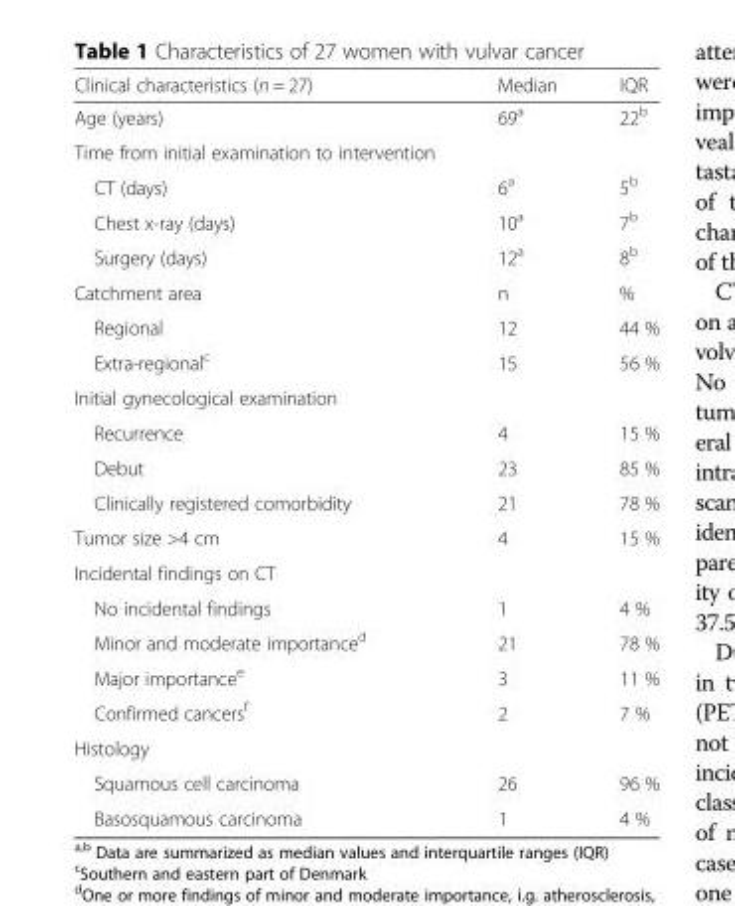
<table><thead><tr><td>Clinical characteristics (n = 27)</td><td>Median</td><td>IQR</td></tr></thead><tbody><tr><td>Age (years)</td><td>69<sup>a</sup></td><td>22<sup>b</sup></td></tr><tr><td colspan="3">Time from initial examination to intervention</td></tr><tr><td>CT (days)</td><td>6<sup>a</sup></td><td>5<sup>b</sup></td></tr><tr><td>Chest x-ray (days)</td><td>10<sup>a</sup></td><td>7<sup>b</sup></td></tr><tr><td>Surgery (days)</td><td>12<sup>a</sup></td><td>8<sup>b</sup></td></tr><tr><td>Catchment area</td><td>n</td><td>%</td></tr><tr><td>Regional</td><td>12</td><td>44 %</td></tr><tr><td>Extra-regional<sup>c</sup></td><td>15</td><td>56 %</td></tr><tr><td colspan="3">Initial gynecological examination</td></tr><tr><td>Recurrence</td><td>4</td><td>15 %</td></tr><tr><td>Debut</td><td>23</td><td>85 %</td></tr><tr><td>Clinically registered comorbidity</td><td>21</td><td>78 %</td></tr><tr><td>Tumor size &gt;4 cm</td><td>4</td><td>15 %</td></tr><tr><td colspan="3">Incidental findings on CT</td></tr><tr><td>No incidental findings</td><td>1</td><td>4 %</td></tr><tr><td>Minor and moderate importance<sup>d</sup></td><td>21</td><td>78 %</td></tr><tr><td>Major importance<sup>e</sup></td><td>3</td><td>11 %</td></tr><tr><td>Confirmed cancers<sup>f</sup></td><td>2</td><td>7 %</td></tr><tr><td colspan="3">Histology</td></tr><tr><td>Squamous cell carcinoma</td><td>26</td><td>96 %</td></tr><tr><td>Basosquamous carcinoma</td><td>1</td><td>4 %</td></tr></tbody></table>